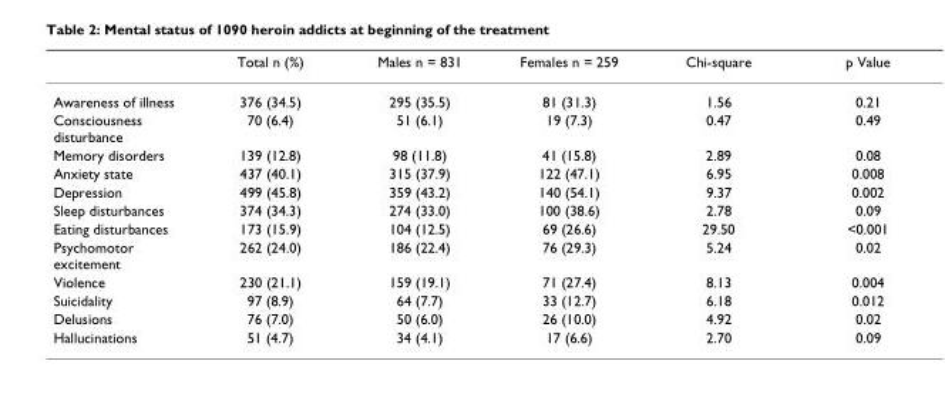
<table><thead><tr><td></td><td>Total n (%)</td><td>Males n = 831</td><td>Females n = 259</td><td>Chi-square</td><td>p Value</td></tr></thead><tbody><tr><td>Awareness of illness</td><td>376 (34.5)</td><td>295 (35.5)</td><td>81 (31.3)</td><td>1.56</td><td>0.21</td></tr><tr><td>Consciousness disturbance</td><td>70 (6.4)</td><td>51 (6.1)</td><td>19 (7.3)</td><td>0.47</td><td>0.49</td></tr><tr><td>Memory disorders</td><td>139 (12.8)</td><td>98 (11.8)</td><td>41 (15.8)</td><td>2.89</td><td>0.08</td></tr><tr><td>Anxiety state</td><td>437 (40.1)</td><td>315 (37.9)</td><td>122 (47.1)</td><td>6.95</td><td>0.008</td></tr><tr><td>Depression</td><td>499 (45.8)</td><td>359 (43.2)</td><td>140 (54.1)</td><td>9.37</td><td>0.002</td></tr><tr><td>Sleep disturbances</td><td>374 (34.3)</td><td>274 (33.0)</td><td>100 (38.6)</td><td>2.78</td><td>0.09</td></tr><tr><td>Eating disturbances</td><td>173 (15.9)</td><td>104 (12.5)</td><td>69 (26.6)</td><td>29.50</td><td>&lt;0.001</td></tr><tr><td>Psychomotor excitement</td><td>262 (24.0)</td><td>186 (22.4)</td><td>76 (29.3)</td><td>5.24</td><td>0.02</td></tr><tr><td>Violence</td><td>230 (21.1)</td><td>159 (19.1)</td><td>71 (27.4)</td><td>8.13</td><td>0.004</td></tr><tr><td>Suicidality</td><td>97 (8.9)</td><td>64 (7.7)</td><td>33 (12.7)</td><td>6.18</td><td>0.012</td></tr><tr><td>Delusions</td><td>76 (7.0)</td><td>50 (6.0)</td><td>26 (10.0)</td><td>4.92</td><td>0.02</td></tr><tr><td>Hallucinations</td><td>51 (4.7)</td><td>34 (4.1)</td><td>17 (6.6)</td><td>2.70</td><td>0.09</td></tr></tbody></table>